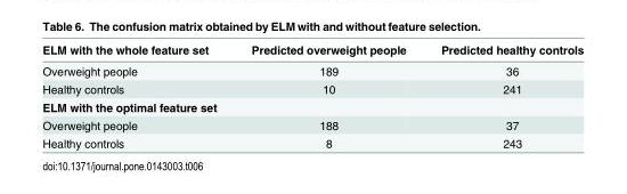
<table><thead><tr><td>ELM with the whole feature set</td><td>Predicted overweight people</td><td>Predicted healthy controls</td></tr></thead><tbody><tr><td>Overweight people</td><td>189</td><td>36</td></tr><tr><td>Healthy controls</td><td>10</td><td>241</td></tr><tr><td colspan="3">ELM with the optimal feature set</td></tr><tr><td>Overweight people</td><td>188</td><td>37</td></tr><tr><td>Healthy controls</td><td>8</td><td>243</td></tr></tbody></table>